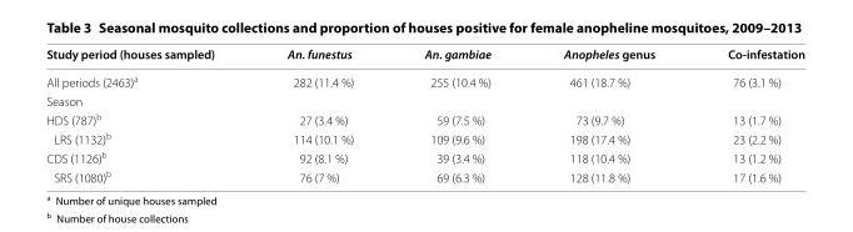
<table><thead><tr><td>Study period (houses sampled)</td><td>An. funestus</td><td>An. gambiae</td><td>Anopheles genus</td><td>Co-infestation</td></tr></thead><tbody><tr><td>All periods (2463)<sup>a</sup></td><td>282 (11.4 %)</td><td>255 (10.4 %)</td><td>461 (18.7 %)</td><td>76 (3.1 %)</td></tr><tr><td colspan="5">Season</td></tr><tr><td>HDS (787)<sup>b</sup></td><td>27 (3.4 %)</td><td>59 (7.5 %)</td><td>73 (9.7 %)</td><td>13 (1.7 %)</td></tr><tr><td>LRS (1132)<sup>b</sup></td><td>114 (10.1 %)</td><td>109 (9.6 %)</td><td>198 (17.4 %)</td><td>23 (2.2 %)</td></tr><tr><td>CDS (1126)<sup>b</sup></td><td>92 (8.1 %)</td><td>39 (3.4 %)</td><td>118 (10.4 %)</td><td>13 (1.2 %)</td></tr><tr><td>SRS (1080)<sup>b</sup></td><td>76 (7 %)</td><td>69 (6.3 %)</td><td>128 (11.8 %)</td><td>17 (1.6 %)</td></tr></tbody></table>